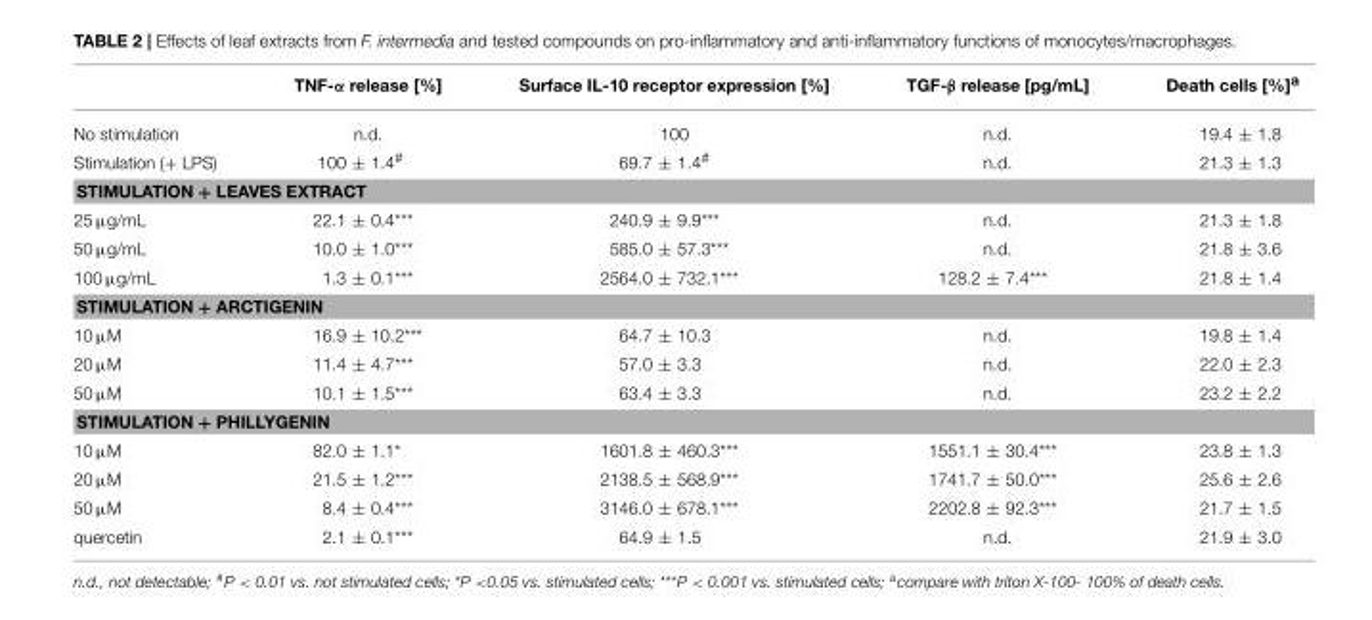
<table><thead><tr><td></td><td>TNF-α release [%]</td><td>Surface IL-10 receptor expression [%]</td><td>TGF-β release [pg/mL]</td><td>Death cells [%]<sup>a</sup></td></tr></thead><tbody><tr><td>No stimulation</td><td>n.d.</td><td>100</td><td>n.d.</td><td>19.4 ± 1.8</td></tr><tr><td>Stimulation (+ LPS)</td><td>100 ± 1.4<sup>#</sup></td><td>69.7 ± 1.4<sup>#</sup></td><td>n.d.</td><td>21.3 ± 1.3</td></tr><tr><td colspan="5">STIMULATION + LEAVES EXTRACT</td></tr><tr><td>25 µg/mL</td><td>22.1 ± 0.4***</td><td>240.9 ± 9.9***</td><td>n.d.</td><td>21.3 ± 1.8</td></tr><tr><td>50 µg/mL</td><td>10.0 ± 1.0***</td><td>585.0 ± 57.3***</td><td>n.d.</td><td>21.8 ± 3.6</td></tr><tr><td>100 µg/mL</td><td>1.3 ± 0.1***</td><td>2564.0 ± 732.1***</td><td>128.2 ± 7.4***</td><td>21.8 ± 1.4</td></tr><tr><td colspan="5">STIMULATION + ARCTIGENIN</td></tr><tr><td>10 µM</td><td>16.9 ± 10.2***</td><td>64.7 ± 10.3</td><td>n.d.</td><td>19.8 ± 1.4</td></tr><tr><td>20 µM</td><td>11.4 ± 4.7***</td><td>57.0 ± 3.3</td><td>n.d.</td><td>22.0 ± 2.3</td></tr><tr><td>50 µM</td><td>10.1 ± 1.5***</td><td>63.4 ± 3.3</td><td>n.d.</td><td>23.2 ± 2.2</td></tr><tr><td colspan="5">STIMULATION + PHILLYGENIN</td></tr><tr><td>10 µM</td><td>82.0 ± 1.1*</td><td>1601.8 ± 460.3***</td><td>1551.1 ± 30.4***</td><td>23.8 ± 1.3</td></tr><tr><td>20 µM</td><td>21.5 ± 1.2***</td><td>2138.5 ± 568.9***</td><td>1741.7 ± 50.0***</td><td>25.6 ± 2.6</td></tr><tr><td>50 µM</td><td>8.4 ± 0.4***</td><td>3146.0 ± 678.1***</td><td>2202.8 ± 92.3***</td><td>21.7 ± 1.5</td></tr><tr><td>quercetin</td><td>2.1 ± 0.1***</td><td>64.9 ± 1.5</td><td>n.d.</td><td>21.9 ± 3.0</td></tr></tbody></table>